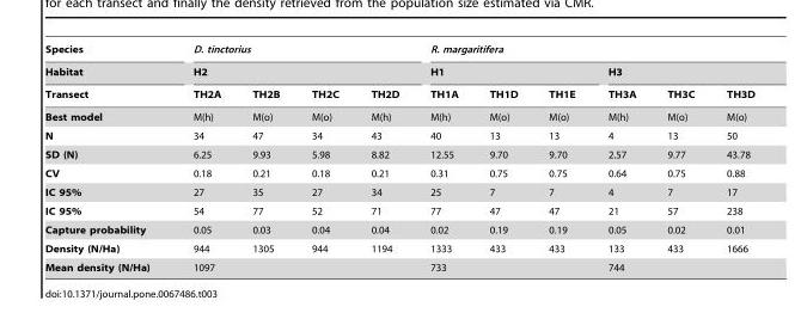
<table><thead><tr><td rowspan="3">Species Habitat Transect</td><td rowspan="2" colspan="4">D. tinctorius H2</td><td colspan="6">R. margaritifera</td></tr><tr><td colspan="3">H1</td><td colspan="3">H3</td></tr><tr><td>TH2A</td><td>TH2B</td><td>TH2C</td><td>TH2D</td><td>TH1A</td><td>TH1D</td><td>TH1E</td><td>TH3A</td><td>TH3C</td><td>TH3D</td></tr></thead><tbody><tr><td>Best model</td><td>M(h)</td><td>M(o)</td><td>M(o)</td><td>M(h)</td><td>M(h)</td><td>M(o)</td><td>M(o)</td><td>M(h)</td><td>M(o)</td><td>M(o)</td></tr><tr><td>N</td><td>34</td><td>47</td><td>34</td><td>43</td><td>40</td><td>13</td><td>13</td><td>4</td><td>13</td><td>50</td></tr><tr><td>SD (N)</td><td>6.25</td><td>9.93</td><td>5.98</td><td>8.82</td><td>12.55</td><td>9.70</td><td>9.70</td><td>2.57</td><td>9.77</td><td>43.78</td></tr><tr><td>CV</td><td>0.18</td><td>0.21</td><td>0.18</td><td>0.21</td><td>0.31</td><td>0.75</td><td>0.75</td><td>0.64</td><td>0.75</td><td>0.88</td></tr><tr><td>IC 95%</td><td>27</td><td>35</td><td>27</td><td>34</td><td>25</td><td>7</td><td>7</td><td>4</td><td>7</td><td>17</td></tr><tr><td>IC 95%</td><td>54</td><td>77</td><td>52</td><td>71</td><td>77</td><td>47</td><td>47</td><td>21</td><td>57</td><td>238</td></tr><tr><td>Capture probability</td><td>0.05</td><td>0.03</td><td>0.04</td><td>0.04</td><td>0.02</td><td>0.19</td><td>0.19</td><td>0.05</td><td>0.02</td><td>0.01</td></tr><tr><td>Density (N/Ha)</td><td>944</td><td>1305</td><td>944</td><td>1194</td><td>1333</td><td>433</td><td>433</td><td>133</td><td>433</td><td>1666</td></tr><tr><td>Mean density (N/Ha)</td><td colspan="4">1097</td><td colspan="3">733</td><td colspan="3">744</td></tr></tbody></table>